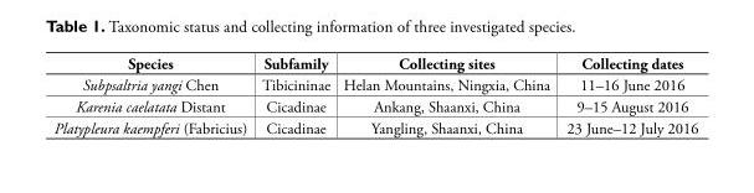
<table><tbody><tr><td>Species</td><td>Subfamily</td><td>Collecting sites</td><td>Collecting dates</td></tr><tr><td>Subpsaltria yangi Chen</td><td>Tibicininae</td><td>Helan Mountains, Ningxia, China</td><td>11–16 June 2016</td></tr><tr><td>Karenia caelatata Distant</td><td>Cicadinae</td><td>Ankang, Shaanxi, China</td><td>9–15 August 2016</td></tr><tr><td>Platypleura kaempferi (Fabricius)</td><td>Cicadinae</td><td>Yangling, Shaanxi, China</td><td>23 June–12 July 2016</td></tr></tbody></table>